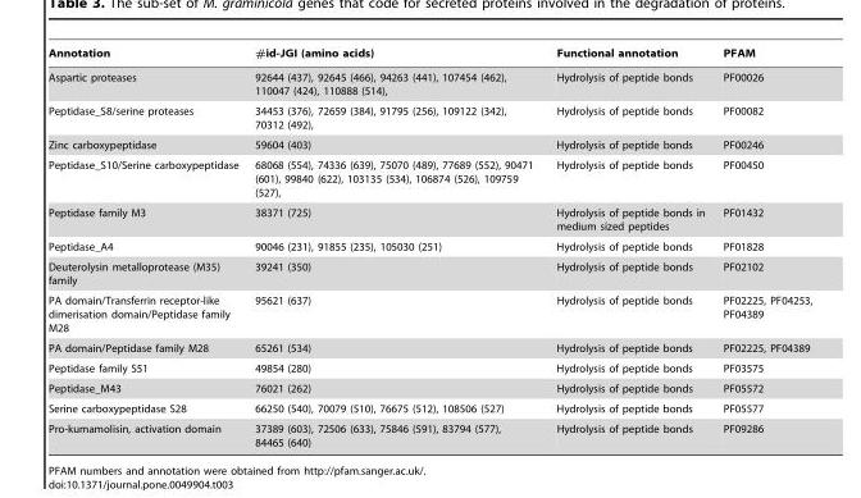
<table><thead><tr><td>Annotation</td><td>#id-JGI (amino acids)</td><td>Functional annotation</td><td>PFAM</td></tr></thead><tbody><tr><td>Aspartic proteases</td><td>92644 (437), 92645 (466), 94263 (441), 107454 (462), 110047 (424), 110888 (514),</td><td>Hydrolysis of peptide bonds</td><td>PF00026</td></tr><tr><td>Peptidase_S8/serine proteases</td><td>34453 (376), 72659 (384), 91795 (256), 109122 (342), 70312 (492),</td><td>Hydrolysis of peptide bonds</td><td>PF00082</td></tr><tr><td>Zinc carboxypeptidase</td><td>59604 (403)</td><td>Hydrolysis of peptide bonds</td><td>PF00246</td></tr><tr><td>Peptidase_S10/Serine carboxypeptidase</td><td>68068 (554), 74336 (639), 75070 (489), 77689 (552), 90471 (601), 99840 (622), 103135 (534), 106874 (526), 109759 (527),</td><td>Hydrolysis of peptide bonds</td><td>PF00450</td></tr><tr><td>Peptidase family M3</td><td>38371 (725)</td><td>Hydrolysis of peptide bonds in medium sized peptides</td><td>PF01432</td></tr><tr><td>Peptidase_A4</td><td>90046 (231), 91855 (235), 105030 (251)</td><td>Hydrolysis of peptide bonds</td><td>PF01828</td></tr><tr><td>Deuterolysin metalloprotease (M35) family</td><td>39241 (350)</td><td>Hydrolysis of peptide bonds</td><td>PF02102</td></tr><tr><td>PA domain/Transferrin receptor-like dimerisation domain/Peptidase family M28</td><td>95621 (637)</td><td>Hydrolysis of peptide bonds</td><td>PF02225, PF04253, PF04389</td></tr><tr><td>PA domain/Peptidase family M28</td><td>65261 (534)</td><td>Hydrolysis of peptide bonds</td><td>PF02225, PF04389</td></tr><tr><td>Peptidase family S51</td><td>49854 (280)</td><td>Hydrolysis of peptide bonds</td><td>PF03575</td></tr><tr><td>Peptidase_M43</td><td>76021 (262)</td><td>Hydrolysis of peptide bonds</td><td>PF05572</td></tr><tr><td>Serine carboxypeptidase S28</td><td>66250 (540), 70079 (510), 76675 (512), 108506 (527)</td><td>Hydrolysis of peptide bonds</td><td>PF05577</td></tr><tr><td>Pro-kumamolisin, activation domain</td><td>37389 (603), 72506 (633), 75846 (591), 83794 (577), 84465 (640)</td><td>Hydrolysis of peptide bonds</td><td>PF09286</td></tr></tbody></table>